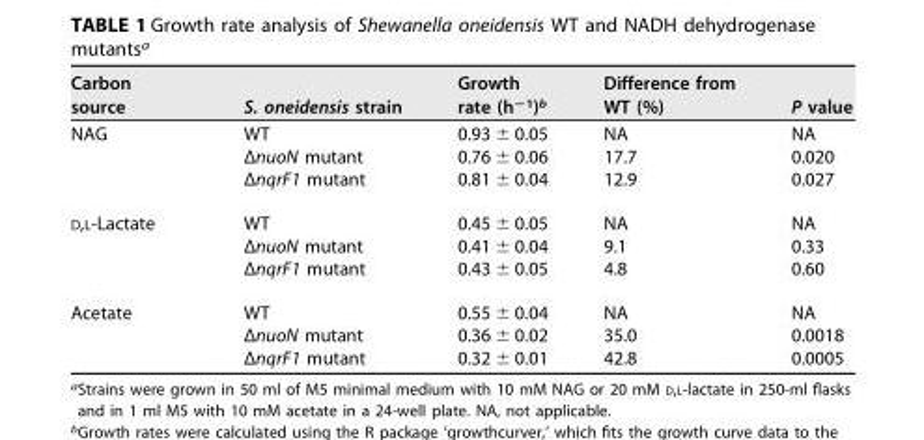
<table><thead><tr><td>Carbon source</td><td>S. oneidensis strain</td><td>Growth rate (h<sup>−1</sup>)<sup>b</sup></td><td>Difference from WT (%)</td><td>P value</td></tr></thead><tbody><tr><td rowspan="3">NAG</td><td>WT</td><td>0.93 ± 0.05</td><td>NA</td><td>NA</td></tr><tr><td>ΔnuoN mutant</td><td>0.76 ± 0.06</td><td>17.7</td><td>0.020</td></tr><tr><td>ΔnqrF1 mutant</td><td>0.81 ± 0.04</td><td>12.9</td><td>0.027</td></tr><tr><td rowspan="3">D,L-Lactate</td><td>WT</td><td>0.45 ± 0.05</td><td>NA</td><td>NA</td></tr><tr><td>ΔnuoN mutant</td><td>0.41 ± 0.04</td><td>9.1</td><td>0.33</td></tr><tr><td>ΔnqrF1 mutant</td><td>0.43 ± 0.05</td><td>4.8</td><td>0.60</td></tr><tr><td rowspan="3">Acetate</td><td>WT</td><td>0.55 ± 0.04</td><td>NA</td><td>NA</td></tr><tr><td>ΔnuoN mutant</td><td>0.36 ± 0.02</td><td>35.0</td><td>0.0018</td></tr><tr><td>ΔnqrF1 mutant</td><td>0.32 ± 0.01</td><td>42.8</td><td>0.0005</td></tr></tbody></table>